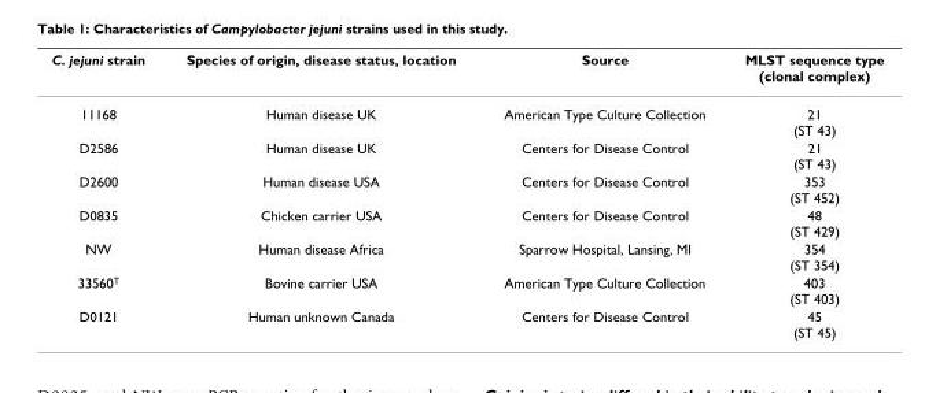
<table><thead><tr><td>C. jejuni strain</td><td>Species of origin, disease status, location</td><td>Source</td><td>MLST sequence type (clonal complex)</td></tr></thead><tbody><tr><td>11168</td><td>Human disease UK</td><td>American Type Culture Collection</td><td>21 (ST 43)</td></tr><tr><td>D2586</td><td>Human disease UK</td><td>Centers for Disease Control</td><td>21 (ST 43)</td></tr><tr><td>D2600</td><td>Human disease USA</td><td>Centers for Disease Control</td><td>353 (ST 452)</td></tr><tr><td>D0835</td><td>Chicken carrier USA</td><td>Centers for Disease Control</td><td>48 (ST 429)</td></tr><tr><td>NW</td><td>Human disease Africa</td><td>Sparrow Hospital, Lansing, MI</td><td>354 (ST 354)</td></tr><tr><td>33560<sup>T</sup></td><td>Bovine carrier USA</td><td>American Type Culture Collection</td><td>403 (ST 403)</td></tr><tr><td>D0121</td><td>Human unknown Canada</td><td>Centers for Disease Control</td><td>45 (ST 45)</td></tr></tbody></table>